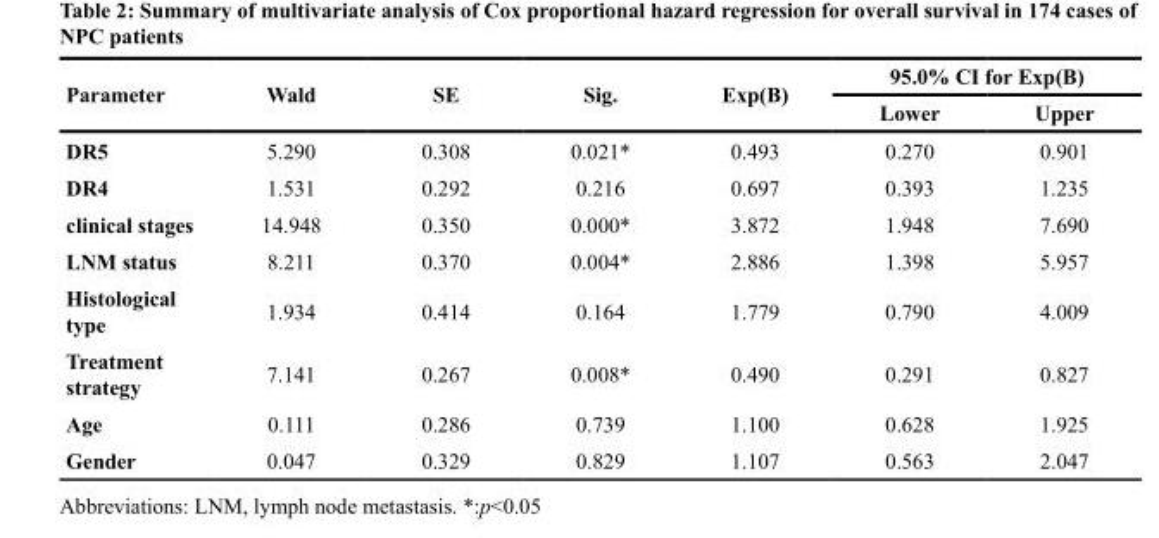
<table><thead><tr><td rowspan="2">Parameter</td><td rowspan="2">Wald</td><td rowspan="2">SE</td><td rowspan="2">Sig.</td><td rowspan="2">Exp(B)</td><td colspan="2">95.0% CI for Exp(B)</td></tr><tr><td>Lower</td><td>Upper</td></tr></thead><tbody><tr><td>DR5</td><td>5.290</td><td>0.308</td><td>0.021*</td><td>0.493</td><td>0.270</td><td>0.901</td></tr><tr><td>DR4</td><td>1.531</td><td>0.292</td><td>0.216</td><td>0.697</td><td>0.393</td><td>1.235</td></tr><tr><td>clinical stages</td><td>14.948</td><td>0.350</td><td>0.000*</td><td>3.872</td><td>1.948</td><td>7.690</td></tr><tr><td>LNM status</td><td>8.211</td><td>0.370</td><td>0.004*</td><td>2.886</td><td>1.398</td><td>5.957</td></tr><tr><td>Histological type</td><td>1.934</td><td>0.414</td><td>0.164</td><td>1.779</td><td>0.790</td><td>4.009</td></tr><tr><td>Treatment strategy</td><td>7.141</td><td>0.267</td><td>0.008*</td><td>0.490</td><td>0.291</td><td>0.827</td></tr><tr><td>Age</td><td>0.111</td><td>0.286</td><td>0.739</td><td>1.100</td><td>0.628</td><td>1.925</td></tr><tr><td>Gender</td><td>0.047</td><td>0.329</td><td>0.829</td><td>1.107</td><td>0.563</td><td>2.047</td></tr></tbody></table>